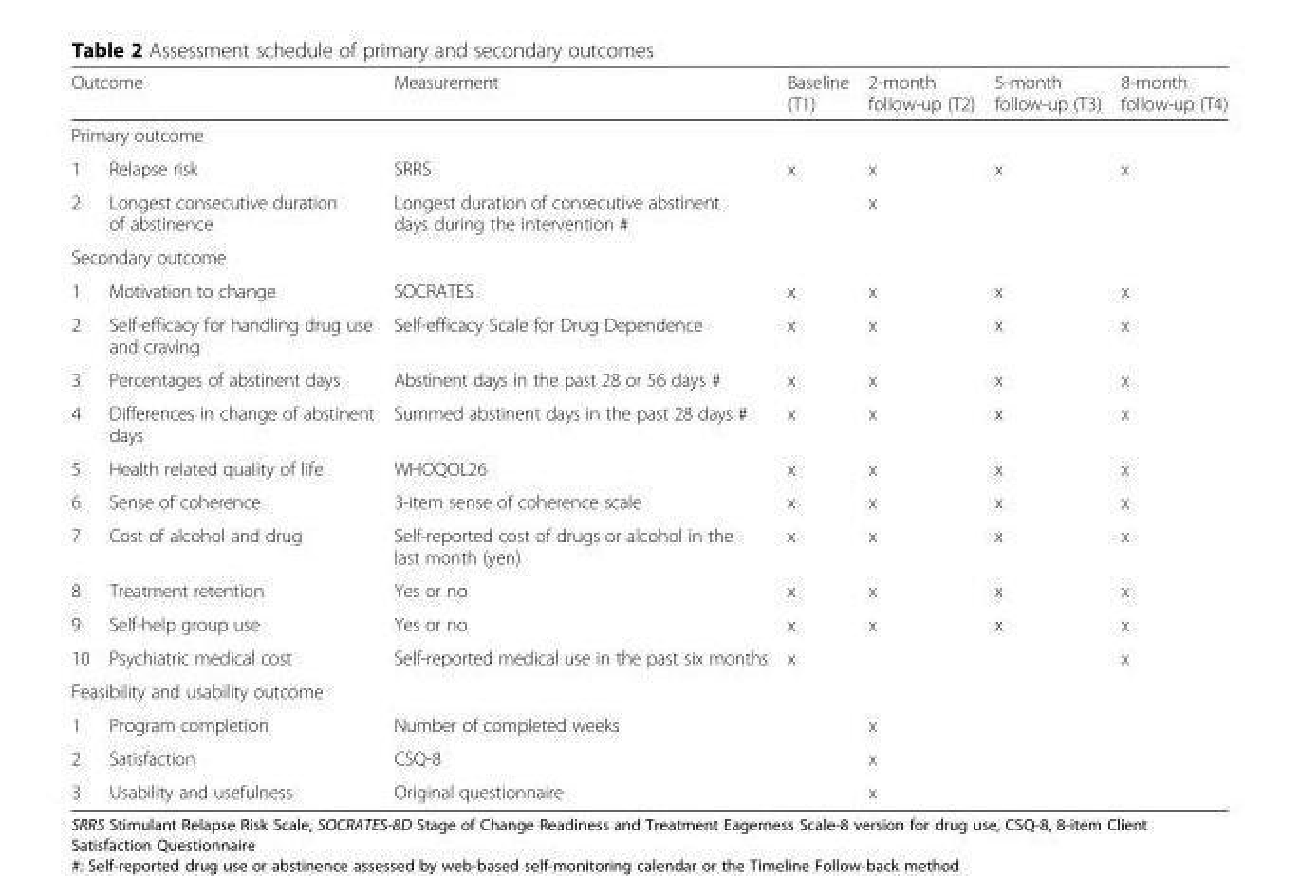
<table><thead><tr><td rowspan="2" colspan="2">Outcome Primary outcome</td><td rowspan="3">Measurement SRRS</td><td rowspan="3">Baseline (T1) x</td><td rowspan="3">2-month follow-up (T2) x</td><td rowspan="3">5-month follow-up (T3) x</td><td rowspan="3">8-month follow-up (T4) x</td></tr><tr></tr><tr><td>1</td><td>Relapse risk</td></tr></thead><tbody><tr><td>2</td><td>Longest consecutive duration of abstinence</td><td>Longest duration of consecutive abstinent days during the intervention #</td><td></td><td>x</td><td></td><td></td></tr><tr><td colspan="7">Secondary outcome</td></tr><tr><td>1</td><td>Motivation to change</td><td>SOCRATES</td><td>x</td><td>x</td><td>x</td><td>x</td></tr><tr><td>2</td><td>Self-efficacy for handling drug use and craving</td><td>Self-efficacy Scale for Drug Dependence</td><td>x</td><td>x</td><td>x</td><td>x</td></tr><tr><td>3</td><td>Percentages of abstinent days</td><td>Abstinent days in the past 28 or 56 days #</td><td>x</td><td>x</td><td>x</td><td>x</td></tr><tr><td>4</td><td>Differences in change of abstinent days</td><td>Summed abstinent days in the past 28 days #</td><td>x</td><td>x</td><td>x</td><td>x</td></tr><tr><td>5</td><td>Health related quality of life</td><td>WHOQOL26</td><td>x</td><td>x</td><td>x</td><td>x</td></tr><tr><td>6</td><td>Sense of coherence</td><td>3-item sense of coherence scale</td><td>x</td><td>x</td><td>x</td><td>x</td></tr><tr><td>7</td><td>Cost of alcohol and drug</td><td>Self-reported cost of drugs or alcohol in the last month (yen)</td><td>x</td><td>x</td><td>x</td><td>x</td></tr><tr><td>8</td><td>Treatment retention</td><td>Yes or no</td><td>x</td><td>x</td><td>x</td><td>x</td></tr><tr><td>9</td><td>Self-help group use</td><td>Yes or no</td><td>x</td><td>x</td><td>x</td><td>x</td></tr><tr><td>10</td><td>Psychiatric medical cost</td><td>Self-reported medical use in the past six months</td><td>x</td><td></td><td></td><td>x</td></tr><tr><td colspan="7">Feasibility and usability outcome</td></tr><tr><td>1</td><td>Program completion</td><td>Number of completed weeks</td><td></td><td>x</td><td></td><td></td></tr><tr><td>2</td><td>Satisfaction</td><td>CSQ-8</td><td></td><td>x</td><td></td><td></td></tr><tr><td>3</td><td>Usability and usefulness</td><td>Original questionnaire</td><td></td><td>x</td><td></td><td></td></tr></tbody></table>